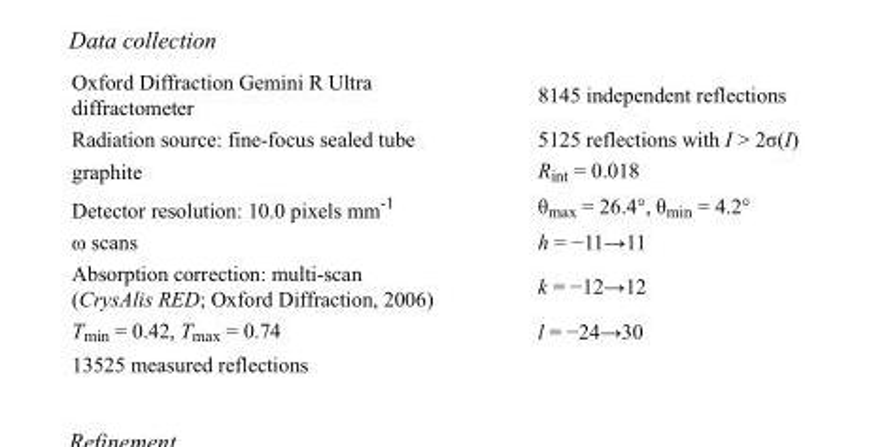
<table><tbody><tr><td>Oxford Diffraction Gemini R Ultra diffractometer</td><td>8145 independent reflections</td></tr><tr><td>Radiation source: fine-focus sealed tube</td><td>5125 reflections with I &gt; 2σ(I)</td></tr><tr><td>graphite</td><td>R<sub>int</sub> = 0.018</td></tr><tr><td>Detector resolution: 10.0 pixels mm<sup>-1</sup></td><td>θ<sub>max</sub> = 26.4°, θ<sub>min</sub> = 4.2°</td></tr><tr><td>ω scans</td><td>h = −11→11</td></tr><tr><td>Absorption correction: multi-scan (CrysAlis RED; Oxford Diffraction, 2006)</td><td>k = −12→12</td></tr><tr><td>T<sub>min</sub> = 0.42, T<sub>max</sub> = 0.74</td><td>l = −24→30</td></tr><tr><td>13525 measured reflections</td><td></td></tr></tbody></table>